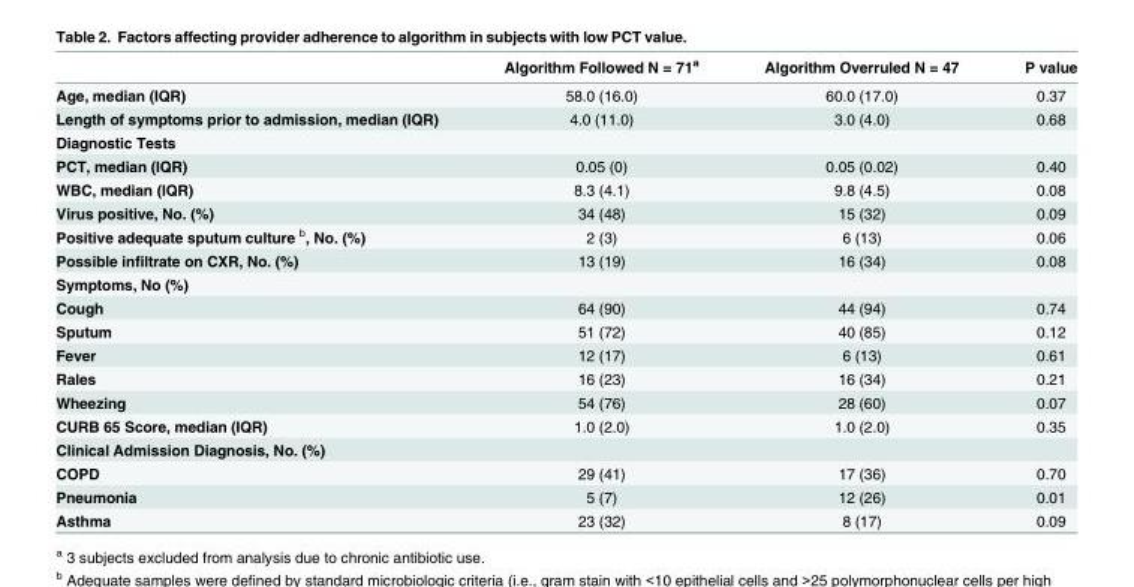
<table><thead><tr><td></td><td>Algorithm Followed N = 71<sup>a</sup></td><td>Algorithm Overruled N = 47</td><td>P value</td></tr></thead><tbody><tr><td>Age, median (IQR)</td><td>58.0 (16.0)</td><td>60.0 (17.0)</td><td>0.37</td></tr><tr><td>Length of symptoms prior to admission, median (IQR)</td><td>4.0 (11.0)</td><td>3.0 (4.0)</td><td>0.68</td></tr><tr><td colspan="4">Diagnostic Tests</td></tr><tr><td>PCT, median (IQR)</td><td>0.05 (0)</td><td>0.05 (0.02)</td><td>0.40</td></tr><tr><td>WBC, median (IQR)</td><td>8.3 (4.1)</td><td>9.8 (4.5)</td><td>0.08</td></tr><tr><td>Virus positive, No. (%)</td><td>34 (48)</td><td>15 (32)</td><td>0.09</td></tr><tr><td>Positive adequate sputum culture <sup>b</sup>, No. (%)</td><td>2 (3)</td><td>6 (13)</td><td>0.06</td></tr><tr><td>Possible infiltrate on CXR, No. (%)</td><td>13 (19)</td><td>16 (34)</td><td>0.08</td></tr><tr><td colspan="4">Symptoms, No (%)</td></tr><tr><td>Cough</td><td>64 (90)</td><td>44 (94)</td><td>0.74</td></tr><tr><td>Sputum</td><td>51 (72)</td><td>40 (85)</td><td>0.12</td></tr><tr><td>Fever</td><td>12 (17)</td><td>6 (13)</td><td>0.61</td></tr><tr><td>Rales</td><td>16 (23)</td><td>16 (34)</td><td>0.21</td></tr><tr><td>Wheezing</td><td>54 (76)</td><td>28 (60)</td><td>0.07</td></tr><tr><td>CURB 65 Score, median (IQR)</td><td>1.0 (2.0)</td><td>1.0 (2.0)</td><td>0.35</td></tr><tr><td colspan="4">Clinical Admission Diagnosis, No. (%)</td></tr><tr><td>COPD</td><td>29 (41)</td><td>17 (36)</td><td>0.70</td></tr><tr><td>Pneumonia</td><td>5 (7)</td><td>12 (26)</td><td>0.01</td></tr><tr><td>Asthma</td><td>23 (32)</td><td>8 (17)</td><td>0.09</td></tr></tbody></table>